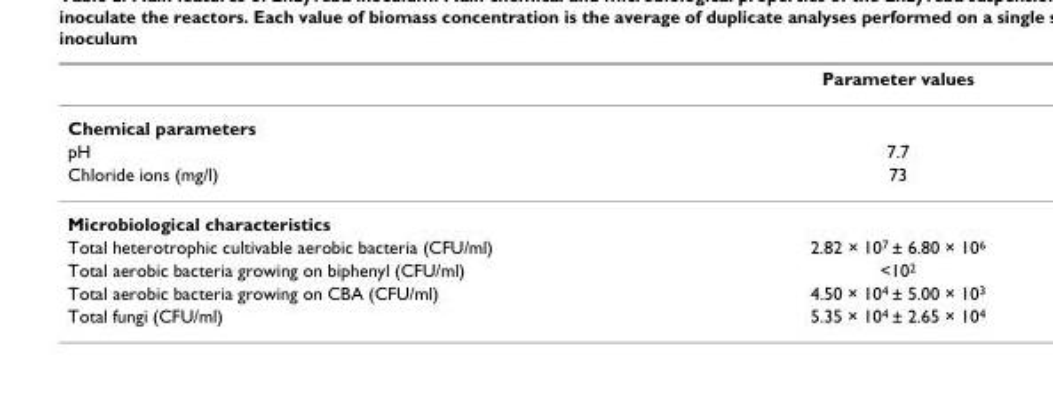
<table><thead><tr><td></td><td>Parameter values</td></tr></thead><tbody><tr><td colspan="2">Chemical parameters</td></tr><tr><td>pH</td><td>7.7</td></tr><tr><td>Chloride ions (mg/l)</td><td>73</td></tr><tr><td colspan="2">Microbiological characteristics</td></tr><tr><td>Total heterotrophic cultivable aerobic bacteria (CFU/ml)</td><td>2.82 × 10<sup>7</sup> ± 6.80 × 10<sup>6</sup></td></tr><tr><td>Total aerobic bacteria growing on biphenyl (CFU/ml)</td><td>&lt;10<sup>2</sup></td></tr><tr><td>Total aerobic bacteria growing on CBA (CFU/ml)</td><td>4.50 × 10<sup>4</sup> ± 5.00 × 10<sup>3</sup></td></tr><tr><td>Total fungi (CFU/ml)</td><td>5.35 × 10<sup>4</sup> ± 2.65 × 10<sup>4</sup></td></tr></tbody></table>